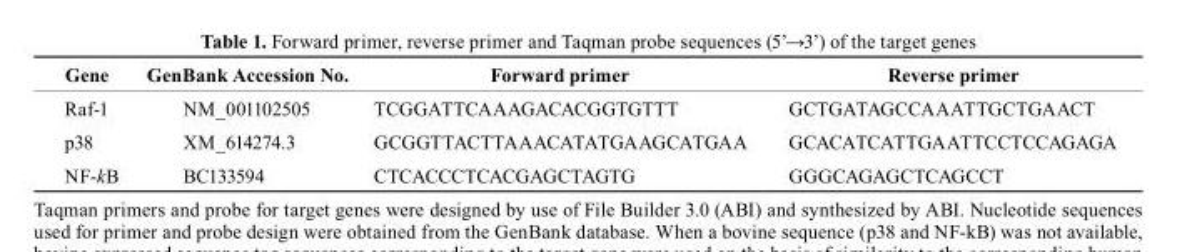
<table><thead><tr><td>Gene</td><td>GenBank Accession no.</td><td>Forward primer</td><td>reverse primer</td></tr></thead><tbody><tr><td>Raf-1</td><td>NM_001102505</td><td>TCGGATTCAAAGACACGGTGTTT</td><td>GCTGATAGCCAAATTGCTGAACT</td></tr><tr><td>p38</td><td>XM_614274.3</td><td>GCGGTTACTTAAACATATGAAGCATGAA</td><td>GCACATCATTGAATTCCTCCAGAGA</td></tr><tr><td>NF-kB</td><td>BC133594</td><td>CTCACCCTCACGAGCTAGTG</td><td>GGGCAGAGCTCAGCCT</td></tr></tbody></table>